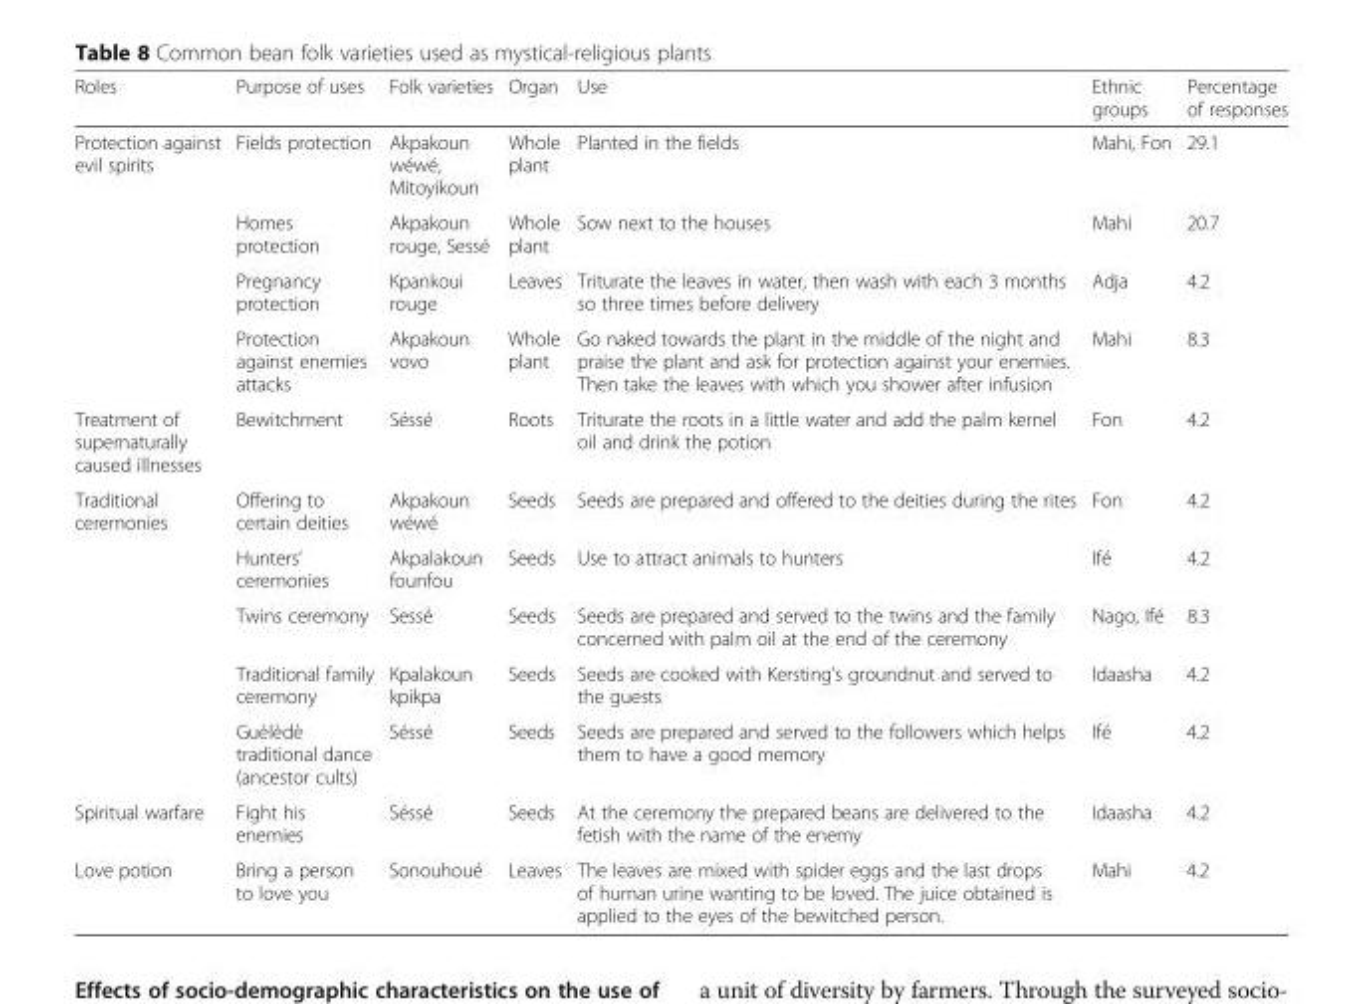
<table><thead><tr><td>Roles</td><td>Purpose of uses</td><td>Folk varieties</td><td>Organ</td><td>Use</td><td>Ethnic groups</td><td>Percentage of responses</td></tr></thead><tbody><tr><td rowspan="4">Protection against evil spirits</td><td>Fields protection</td><td>Akpakoun wéwé, Mitoyikoun</td><td>Whole plant</td><td>Planted in the fields</td><td>Mahi, Fon</td><td>29.1</td></tr><tr><td>Homes protection</td><td>Akpakoun rouge, Sessé</td><td>Whole plant</td><td>Sow next to the houses</td><td>Mahi</td><td>20.7</td></tr><tr><td>Pregnancy protection</td><td>Kpankoui rouge</td><td>Leaves</td><td>Triturate the leaves in water, then wash with each 3 months so three times before delivery</td><td>Adja</td><td>4.2</td></tr><tr><td>Protection against enemies attacks</td><td>Akpakoun vovo</td><td>Whole plant</td><td>Go naked towards the plant in the middle of the night and praise the plant and ask for protection against your enemies. Then take the leaves with which you shower after infusion</td><td>Mahi</td><td>8.3</td></tr><tr><td>Treatment of supernaturally caused illnesses</td><td>Bewitchment</td><td>Séssé</td><td>Roots</td><td>Triturate the roots in a little water and add the palm kernel oil and drink the potion</td><td>Fon</td><td>4.2</td></tr><tr><td rowspan="5">Traditional ceremonies</td><td>Offering to certain deities</td><td>Akpakoun wéwé</td><td>Seeds</td><td>Seeds are prepared and offered to the deities during the rites</td><td>Fon</td><td>4.2</td></tr><tr><td>Hunters’ ceremonies</td><td>Akpalakoun founfou</td><td>Seeds</td><td>Use to attract animals to hunters</td><td>Ifé</td><td>4.2</td></tr><tr><td>Twins ceremony</td><td>Sessé</td><td>Seeds</td><td>Seeds are prepared and served to the twins and the family concerned with palm oil at the end of the ceremony</td><td>Nago, Ifé</td><td>8.3</td></tr><tr><td>Traditional family ceremony</td><td>Kpalakoun kpikpa</td><td>Seeds</td><td>Seeds are cooked with Kersting’s groundnut and served to the guests</td><td>Idaasha</td><td>4.2</td></tr><tr><td>Guèlèdè traditional dance (ancestor cults)</td><td>Séssé</td><td>Seeds</td><td>Seeds are prepared and served to the followers which helps them to have a good memory</td><td>Ifé</td><td>4.2</td></tr><tr><td>Spiritual warfare</td><td>Fight his enemies</td><td>Séssé</td><td>Seeds</td><td>At the ceremony the prepared beans are delivered to the fetish with the name of the enemy</td><td>Idaasha</td><td>4.2</td></tr><tr><td>Love potion</td><td>Bring a person to love you</td><td>Sonouhoué</td><td>Leaves</td><td>The leaves are mixed with spider eggs and the last drops of human urine wanting to be loved. The juice obtained is applied to the eyes of the bewitched person.</td><td>Mahi</td><td>4.2</td></tr></tbody></table>